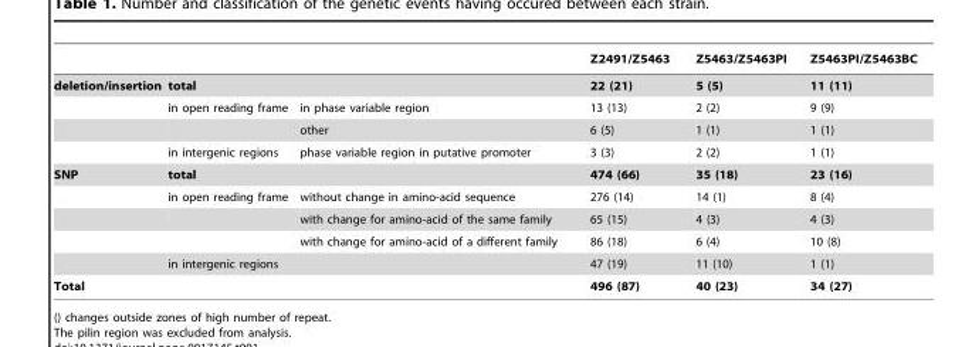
<table><thead><tr><td></td><td></td><td></td><td>Z2491/Z5463</td><td>Z5463/Z5463PI</td><td>Z5463PI/Z5463BC</td></tr></thead><tbody><tr><td rowspan="4">deletion/insertion</td><td colspan="2">total</td><td>22 (21)</td><td>5 (5)</td><td>11 (11)</td></tr><tr><td>in open reading frame</td><td>in phase variable region</td><td>13 (13)</td><td>2 (2)</td><td>9 (9)</td></tr><tr><td></td><td>other</td><td>6 (5)</td><td>1 (1)</td><td>1 (1)</td></tr><tr><td>in intergenic regions</td><td>phase variable region in putative promoter</td><td>3 (3)</td><td>2 (2)</td><td>1 (1)</td></tr><tr><td rowspan="5">SNP</td><td colspan="2">total</td><td>474 (66)</td><td>35 (18)</td><td>23 (16)</td></tr><tr><td>in open reading frame</td><td>without change in amino-acid sequence</td><td>276 (14)</td><td>14 (1)</td><td>8 (4)</td></tr><tr><td></td><td>with change for amino-acid of the same family</td><td>65 (15)</td><td>4 (3)</td><td>4 (3)</td></tr><tr><td></td><td>with change for amino-acid of a different family</td><td>86 (18)</td><td>6 (4)</td><td>10 (8)</td></tr><tr><td colspan="2">in intergenic regions</td><td>47 (19)</td><td>11 (10)</td><td>1 (1)</td></tr><tr><td colspan="3">Total</td><td>496 (87)</td><td>40 (23)</td><td>34 (27)</td></tr></tbody></table>